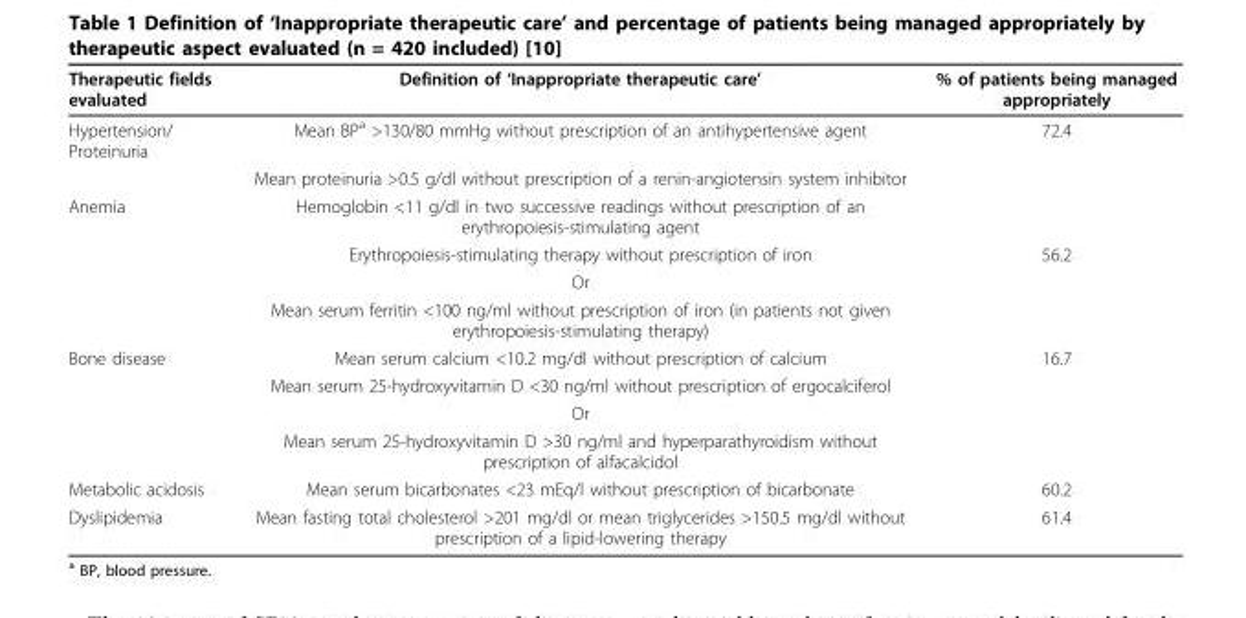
<table><thead><tr><td>Therapeutic fields evaluated</td><td>Definition of ‘Inappropriate therapeutic care’</td><td>% of patients being managed appropriately</td></tr></thead><tbody><tr><td rowspan="2">Hypertension/ Proteinuria</td><td>Mean BP<sup>a</sup> &gt;130/80 mmHg without prescription of an antihypertensive agent</td><td>72.4</td></tr><tr><td>Mean proteinuria &gt;0.5 g/dl without prescription of a renin-angiotensin system inhibitor</td><td></td></tr><tr><td rowspan="4">Anemia</td><td>Hemoglobin &lt;11 g/dl in two successive readings without prescription of an erythropoiesis-stimulating agent</td><td></td></tr><tr><td>Erythropoiesis-stimulating therapy without prescription of iron</td><td>56.2</td></tr><tr><td>Or</td><td></td></tr><tr><td>Mean serum ferritin &lt;100 ng/ml without prescription of iron (in patients not given erythropoiesis-stimulating therapy)</td><td></td></tr><tr><td rowspan="4">Bone disease</td><td>Mean serum calcium &lt;10.2 mg/dl without prescription of calcium</td><td>16.7</td></tr><tr><td>Mean serum 25-hydroxyvitamin D &lt;30 ng/ml without prescription of ergocalciferol</td><td></td></tr><tr><td>Or</td><td></td></tr><tr><td>Mean serum 25-hydroxyvitamin D &gt;30 ng/ml and hyperparathyroidism without prescription of alfacalcidol</td><td></td></tr><tr><td>Metabolic acidosis</td><td>Mean serum bicarbonates &lt;23 mEq/l without prescription of bicarbonate</td><td>60.2</td></tr><tr><td>Dyslipidemia</td><td>Mean fasting total cholesterol &gt;201 mg/dl or mean triglycerides &gt;150.5 mg/dl without prescription of a lipid-lowering therapy</td><td>61.4</td></tr></tbody></table>